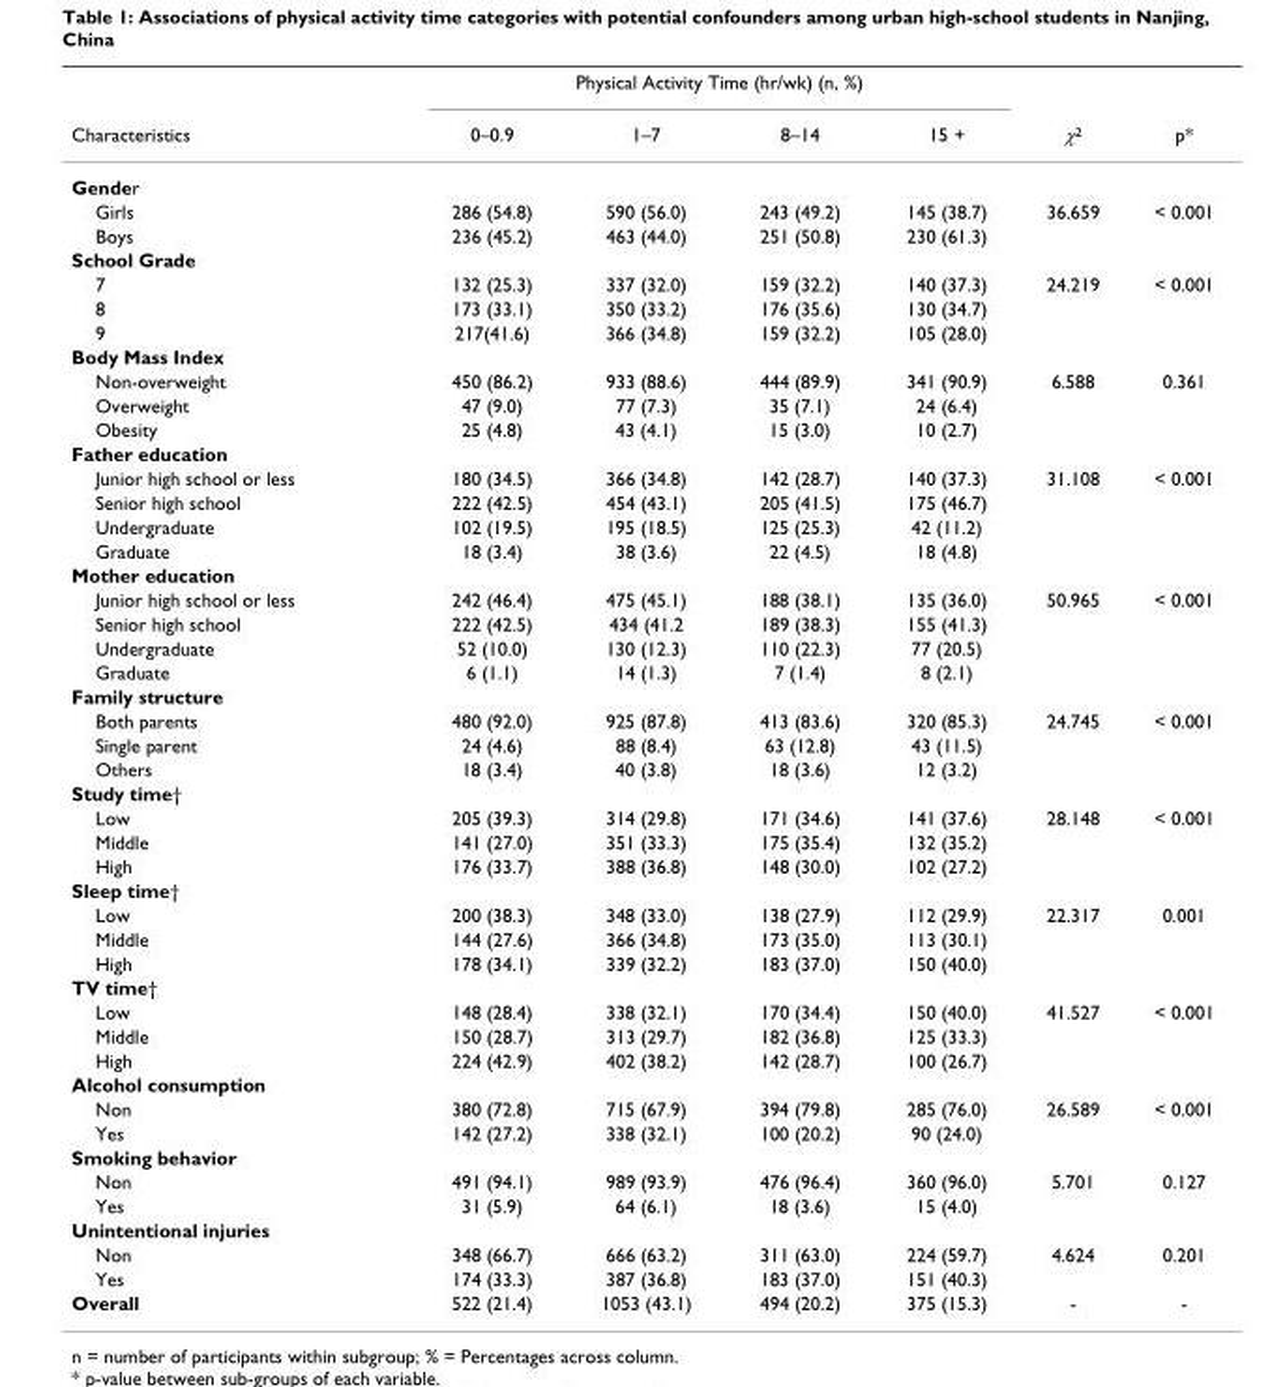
<table><thead><tr><td rowspan="2">Characteristics</td><td colspan="4">Physical Activity Time (hr/wk) (n, %)</td><td rowspan="2">χ<sup>2</sup></td><td rowspan="2">p*</td></tr><tr><td>0–0.9</td><td>1–7</td><td>8–14</td><td>15 +</td></tr></thead><tbody><tr><td colspan="7">Gender</td></tr><tr><td>Girls</td><td>286 (54.8)</td><td>590 (56.0)</td><td>243 (49.2)</td><td>145 (38.7)</td><td>36.659</td><td>&lt; 0.001</td></tr><tr><td>Boys</td><td>236 (45.2)</td><td>463 (44.0)</td><td>251 (50.8)</td><td>230 (61.3)</td><td></td><td></td></tr><tr><td colspan="7">School Grade</td></tr><tr><td>7</td><td>132 (25.3)</td><td>337 (32.0)</td><td>159 (32.2)</td><td>140 (37.3)</td><td>24.219</td><td>&lt; 0.001</td></tr><tr><td>8</td><td>173 (33.1)</td><td>350 (33.2)</td><td>176 (35.6)</td><td>130 (34.7)</td><td></td><td></td></tr><tr><td>9</td><td>217(41.6)</td><td>366 (34.8)</td><td>159 (32.2)</td><td>105 (28.0)</td><td></td><td></td></tr><tr><td colspan="7">Body Mass Index</td></tr><tr><td>Non-overweight</td><td>450 (86.2)</td><td>933 (88.6)</td><td>444 (89.9)</td><td>341 (90.9)</td><td>6.588</td><td>0.361</td></tr><tr><td>Overweight</td><td>47 (9.0)</td><td>77 (7.3)</td><td>35 (7.1)</td><td>24 (6.4)</td><td></td><td></td></tr><tr><td>Obesity</td><td>25 (4.8)</td><td>43 (4.1)</td><td>15 (3.0)</td><td>10 (2.7)</td><td></td><td></td></tr><tr><td colspan="7">Father education</td></tr><tr><td>Junior high school or less</td><td>180 (34.5)</td><td>366 (34.8)</td><td>142 (28.7)</td><td>140 (37.3)</td><td>31.108</td><td>&lt; 0.001</td></tr><tr><td>Senior high school</td><td>222 (42.5)</td><td>454 (43.1)</td><td>205 (41.5)</td><td>175 (46.7)</td><td></td><td></td></tr><tr><td>Undergraduate</td><td>102 (19.5)</td><td>195 (18.5)</td><td>125 (25.3)</td><td>42 (11.2)</td><td></td><td></td></tr><tr><td>Graduate</td><td>18 (3.4)</td><td>38 (3.6)</td><td>22 (4.5)</td><td>18 (4.8)</td><td></td><td></td></tr><tr><td colspan="7">Mother education</td></tr><tr><td>Junior high school or less</td><td>242 (46.4)</td><td>475 (45.1)</td><td>188 (38.1)</td><td>135 (36.0)</td><td>50.965</td><td>&lt; 0.001</td></tr><tr><td>Senior high school</td><td>222 (42.5)</td><td>434 (41.2</td><td>189 (38.3)</td><td>155 (41.3)</td><td></td><td></td></tr><tr><td>Undergraduate</td><td>52 (10.0)</td><td>130 (12.3)</td><td>110 (22.3)</td><td>77 (20.5)</td><td></td><td></td></tr><tr><td>Graduate</td><td>6 (1.1)</td><td>14 (1.3)</td><td>7 (1.4)</td><td>8 (2.1)</td><td></td><td></td></tr><tr><td colspan="7">Family structure</td></tr><tr><td>Both parents</td><td>480 (92.0)</td><td>925 (87.8)</td><td>413 (83.6)</td><td>320 (85.3)</td><td>24.745</td><td>&lt; 0.001</td></tr><tr><td>Single parent</td><td>24 (4.6)</td><td>88 (8.4)</td><td>63 (12.8)</td><td>43 (11.5)</td><td></td><td></td></tr><tr><td>Others</td><td>18 (3.4)</td><td>40 (3.8)</td><td>18 (3.6)</td><td>12 (3.2)</td><td></td><td></td></tr><tr><td colspan="7">Study time†</td></tr><tr><td>Low</td><td>205 (39.3)</td><td>314 (29.8)</td><td>171 (34.6)</td><td>141 (37.6)</td><td>28.148</td><td>&lt; 0.001</td></tr><tr><td>Middle</td><td>141 (27.0)</td><td>351 (33.3)</td><td>175 (35.4)</td><td>132 (35.2)</td><td></td><td></td></tr><tr><td>High</td><td>176 (33.7)</td><td>388 (36.8)</td><td>148 (30.0)</td><td>102 (27.2)</td><td></td><td></td></tr><tr><td colspan="7">Sleep time†</td></tr><tr><td>Low</td><td>200 (38.3)</td><td>348 (33.0)</td><td>138 (27.9)</td><td>112 (29.9)</td><td>22.317</td><td>0.001</td></tr><tr><td>Middle</td><td>144 (27.6)</td><td>366 (34.8)</td><td>173 (35.0)</td><td>113 (30.1)</td><td></td><td></td></tr><tr><td>High</td><td>178 (34.1)</td><td>339 (32.2)</td><td>183 (37.0)</td><td>150 (40.0)</td><td></td><td></td></tr><tr><td colspan="7">TV time†</td></tr><tr><td>Low</td><td>148 (28.4)</td><td>338 (32.1)</td><td>170 (34.4)</td><td>150 (40.0)</td><td>41.527</td><td>&lt; 0.001</td></tr><tr><td>Middle</td><td>150 (28.7)</td><td>313 (29.7)</td><td>182 (36.8)</td><td>125 (33.3)</td><td></td><td></td></tr><tr><td>High</td><td>224 (42.9)</td><td>402 (38.2)</td><td>142 (28.7)</td><td>100 (26.7)</td><td></td><td></td></tr><tr><td colspan="7">Alcohol consumption</td></tr><tr><td>Non</td><td>380 (72.8)</td><td>715 (67.9)</td><td>394 (79.8)</td><td>285 (76.0)</td><td>26.589</td><td>&lt; 0.001</td></tr><tr><td>Yes</td><td>142 (27.2)</td><td>338 (32.1)</td><td>100 (20.2)</td><td>90 (24.0)</td><td></td><td></td></tr><tr><td colspan="7">Smoking behavior</td></tr><tr><td>Non</td><td>491 (94.1)</td><td>989 (93.9)</td><td>476 (96.4)</td><td>360 (96.0)</td><td>5.701</td><td>0.127</td></tr><tr><td>Yes</td><td>31 (5.9)</td><td>64 (6.1)</td><td>18 (3.6)</td><td>15 (4.0)</td><td></td><td></td></tr><tr><td colspan="7">Unintentional injuries</td></tr><tr><td>Non</td><td>348 (66.7)</td><td>666 (63.2)</td><td>311 (63.0)</td><td>224 (59.7)</td><td>4.624</td><td>0.201</td></tr><tr><td>Yes</td><td>174 (33.3)</td><td>387 (36.8)</td><td>183 (37.0)</td><td>151 (40.3)</td><td></td><td></td></tr><tr><td>Overall</td><td>522 (21.4)</td><td>1053 (43.1)</td><td>494 (20.2)</td><td>375 (15.3)</td><td>-</td><td>-</td></tr></tbody></table>